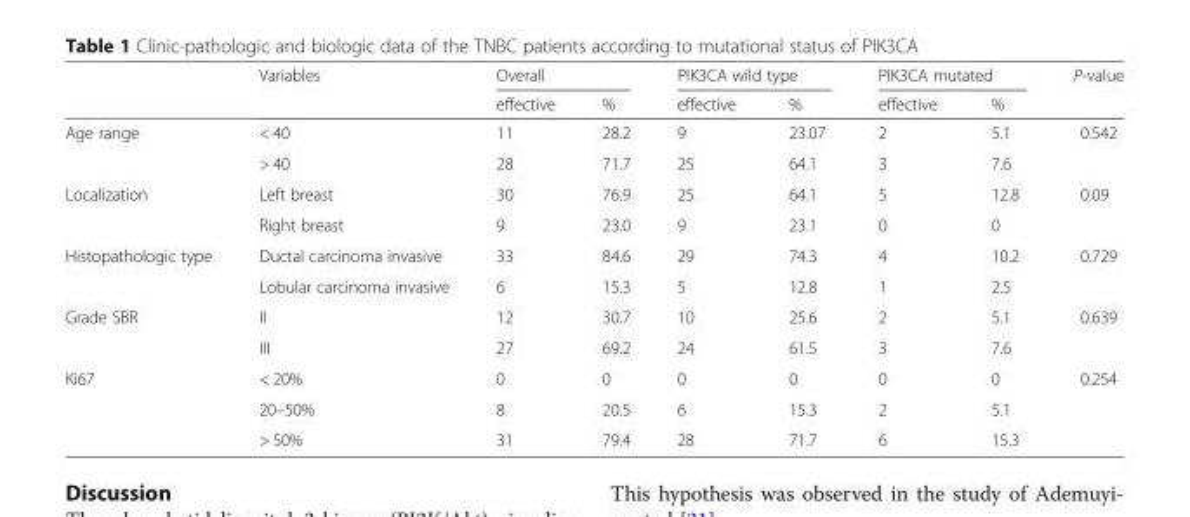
<table><thead><tr><td rowspan="2"></td><td rowspan="2">Variables</td><td colspan="2">Overall</td><td colspan="2">PIK3CA wild type</td><td colspan="2">PIK3CA mutated</td><td rowspan="2">P-value</td></tr><tr><td>effective</td><td>%</td><td>effective</td><td>%</td><td>effective</td><td>%</td></tr></thead><tbody><tr><td rowspan="2">Age range</td><td>&lt; 40</td><td>11</td><td>28.2</td><td>9</td><td>23.07</td><td>2</td><td>5.1</td><td rowspan="2">0.542</td></tr><tr><td>&gt; 40</td><td>28</td><td>71.7</td><td>25</td><td>64.1</td><td>3</td><td>7.6</td></tr><tr><td rowspan="2">Localization</td><td>Left breast</td><td>30</td><td>76.9</td><td>25</td><td>64.1</td><td>5</td><td>12.8</td><td rowspan="2">0.09</td></tr><tr><td>Right breast</td><td>9</td><td>23.0</td><td>9</td><td>23.1</td><td>0</td><td>0</td></tr><tr><td rowspan="2">Histopathologic type</td><td>Ductal carcinoma invasive</td><td>33</td><td>84.6</td><td>29</td><td>74.3</td><td>4</td><td>10.2</td><td rowspan="2">0.729</td></tr><tr><td>Lobular carcinoma invasive</td><td>6</td><td>15.3</td><td>5</td><td>12.8</td><td>1</td><td>2.5</td></tr><tr><td rowspan="2">Grade SBR</td><td>II</td><td>12</td><td>30.7</td><td>10</td><td>25.6</td><td>2</td><td>5.1</td><td rowspan="2">0.639</td></tr><tr><td>III</td><td>27</td><td>69.2</td><td>24</td><td>61.5</td><td>3</td><td>7.6</td></tr><tr><td rowspan="3">Ki67</td><td>&lt; 20%</td><td>0</td><td>0</td><td>0</td><td>0</td><td>0</td><td>0</td><td rowspan="3">0.254</td></tr><tr><td>20–50%</td><td>8</td><td>20.5</td><td>6</td><td>15.3</td><td>2</td><td>5.1</td></tr><tr><td>&gt; 50%</td><td>31</td><td>79.4</td><td>28</td><td>71.7</td><td>6</td><td>15.3</td></tr></tbody></table>